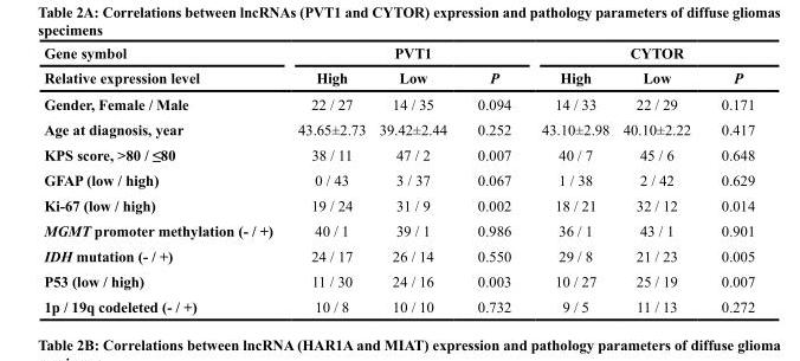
<table><thead><tr><td rowspan="2">Gene symbol Relative expression level</td><td colspan="3">PVT1</td><td colspan="3">CYTOR</td></tr><tr><td>High</td><td>Low</td><td>P</td><td>High</td><td>Low</td><td>P</td></tr></thead><tbody><tr><td>Gender, Female / Male</td><td>22 / 27</td><td>14 / 35</td><td>0.094</td><td>14 / 33</td><td>22 / 29</td><td>0.171</td></tr><tr><td>Age at diagnosis, year</td><td>43.65±2.73</td><td>39.42±2.44</td><td>0.252</td><td>43.10±2.98</td><td>40.10±2.22</td><td>0.417</td></tr><tr><td>KPS score, &gt;80 / ≤80</td><td>38 / 11</td><td>47 / 2</td><td>0.007</td><td>40 / 7</td><td>45 / 6</td><td>0.648</td></tr><tr><td>GFAP (low / high)</td><td>0 / 43</td><td>3 / 37</td><td>0.067</td><td>1 / 38</td><td>2 / 42</td><td>0.629</td></tr><tr><td>Ki-67 (low / high)</td><td>19 / 24</td><td>31 / 9</td><td>0.002</td><td>18 / 21</td><td>32 / 12</td><td>0.014</td></tr><tr><td>MGMT promoter methylation (- / +)</td><td>40 / 1</td><td>39 / 1</td><td>0.986</td><td>36 / 1</td><td>43 / 1</td><td>0.901</td></tr><tr><td>IDH mutation (- / +)</td><td>24 / 17</td><td>26 / 14</td><td>0.550</td><td>29 / 8</td><td>21 / 23</td><td>0.005</td></tr><tr><td>P53 (low / high)</td><td>11 / 30</td><td>24 / 16</td><td>0.003</td><td>10 / 27</td><td>25 / 19</td><td>0.007</td></tr><tr><td>1p / 19q codeleted (- / +)</td><td>10 / 8</td><td>10 / 10</td><td>0.732</td><td>9 / 5</td><td>11 / 13</td><td>0.272</td></tr></tbody></table>